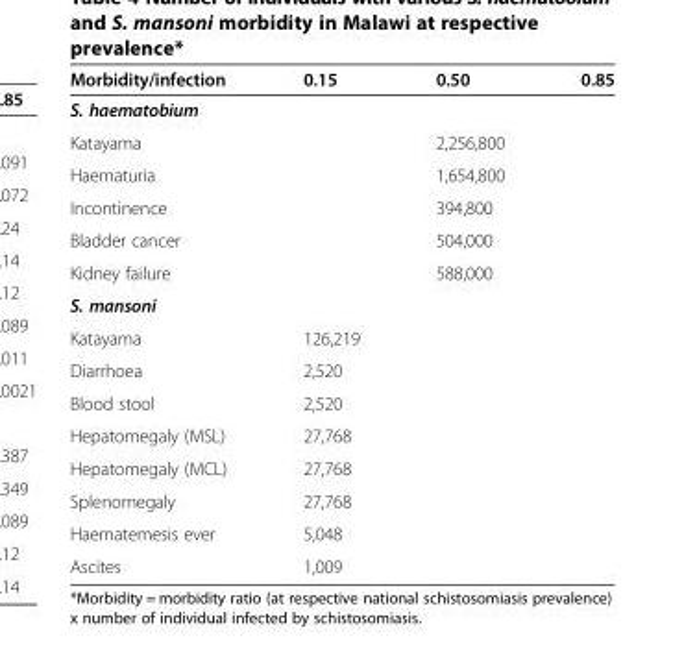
<table><thead><tr><td>Morbidity/infection</td><td>0.15</td><td>0.50</td><td>0.85</td></tr></thead><tbody><tr><td colspan="4">S. haematobium</td></tr><tr><td>Katayama</td><td></td><td>2,256,800</td><td></td></tr><tr><td>Haematuria</td><td></td><td>1,654,800</td><td></td></tr><tr><td>Incontinence</td><td></td><td>394,800</td><td></td></tr><tr><td>Bladder cancer</td><td></td><td>504,000</td><td></td></tr><tr><td>Kidney failure</td><td></td><td>588,000</td><td></td></tr><tr><td colspan="4">S. mansoni</td></tr><tr><td>Katayama</td><td>126,219</td><td></td><td></td></tr><tr><td>Diarrhoea</td><td>2,520</td><td></td><td></td></tr><tr><td>Blood stool</td><td>2,520</td><td></td><td></td></tr><tr><td>Hepatomegaly (MSL)</td><td>27,768</td><td></td><td></td></tr><tr><td>Hepatomegaly (MCL)</td><td>27,768</td><td></td><td></td></tr><tr><td>Splenomegaly</td><td>27,768</td><td></td><td></td></tr><tr><td>Haematemesis ever</td><td>5,048</td><td></td><td></td></tr><tr><td>Ascites</td><td>1,009</td><td></td><td></td></tr></tbody></table>